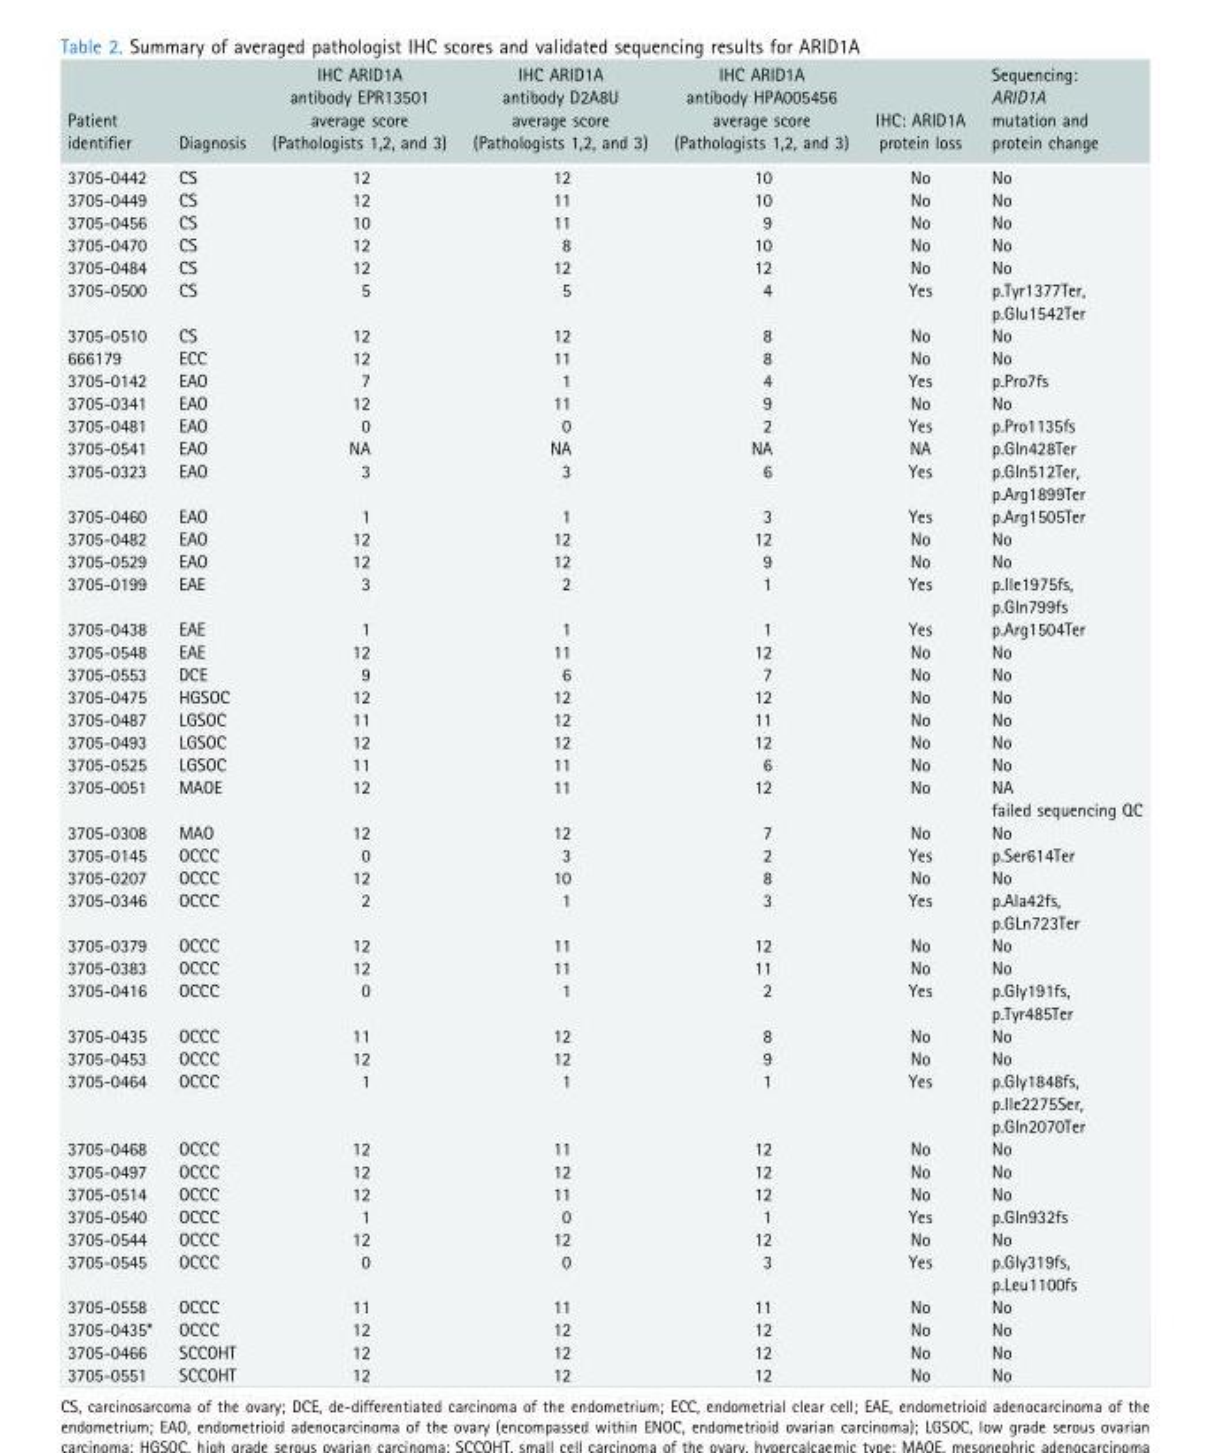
<table><thead><tr><td>Patient identifier</td><td>Diagnosis</td><td>IHC ARID1A antibody EPR13501 average score (Pathologists 1,2, and 3)</td><td>IHC ARID1A antibody D2A8U average score (Pathologists 1,2, and 3)</td><td>IHC ARID1A antibody HPA005456 average score (Pathologists 1,2, and 3)</td><td>IHC: ARID1A protein loss</td><td>Sequencing: ARID1A mutation and protein change</td></tr></thead><tbody><tr><td>3705-0442</td><td>CS</td><td>12</td><td>12</td><td>10</td><td>No</td><td>No</td></tr><tr><td>3705-0449</td><td>CS</td><td>12</td><td>11</td><td>10</td><td>No</td><td>No</td></tr><tr><td>3705-0456</td><td>CS</td><td>10</td><td>11</td><td>9</td><td>No</td><td>No</td></tr><tr><td>3705-0470</td><td>CS</td><td>12</td><td>8</td><td>10</td><td>No</td><td>No</td></tr><tr><td>3705-0484</td><td>CS</td><td>12</td><td>12</td><td>12</td><td>No</td><td>No</td></tr><tr><td>3705-0500</td><td>CS</td><td>5</td><td>5</td><td>4</td><td>Yes</td><td>p.Tyr1377Ter, p.Glu1542Ter</td></tr><tr><td>3705-0510</td><td>CS</td><td>12</td><td>12</td><td>8</td><td>No</td><td>No</td></tr><tr><td>666179</td><td>ECC</td><td>12</td><td>11</td><td>8</td><td>No</td><td>No</td></tr><tr><td>3705-0142</td><td>EAO</td><td>7</td><td>1</td><td>4</td><td>Yes</td><td>p.Pro7fs</td></tr><tr><td>3705-0341</td><td>EAO</td><td>12</td><td>11</td><td>9</td><td>No</td><td>No</td></tr><tr><td>3705-0481</td><td>EAO</td><td>0</td><td>0</td><td>2</td><td>Yes</td><td>p.Pro1135fs</td></tr><tr><td>3705-0541</td><td>EAO</td><td>NA</td><td>NA</td><td>NA</td><td>NA</td><td>p.Gln428Ter</td></tr><tr><td>3705-0323</td><td>EAO</td><td>3</td><td>3</td><td>6</td><td>Yes</td><td>p.Gln512Ter, p.Arg1899Ter</td></tr><tr><td>3705-0460</td><td>EAO</td><td>1</td><td>1</td><td>3</td><td>Yes</td><td>p.Arg1505Ter</td></tr><tr><td>3705-0482</td><td>EAO</td><td>12</td><td>12</td><td>12</td><td>No</td><td>No</td></tr><tr><td>3705-0529</td><td>EAO</td><td>12</td><td>12</td><td>9</td><td>No</td><td>No</td></tr><tr><td>3705-0199</td><td>EAE</td><td>3</td><td>2</td><td>1</td><td>Yes</td><td>p.Ile1975fs, p.Gln799fs</td></tr><tr><td>3705-0438</td><td>EAE</td><td>1</td><td>1</td><td>1</td><td>Yes</td><td>p.Arg1504Ter</td></tr><tr><td>3705-0548</td><td>EAE</td><td>12</td><td>11</td><td>12</td><td>No</td><td>No</td></tr><tr><td>3705-0553</td><td>DCE</td><td>9</td><td>6</td><td>7</td><td>No</td><td>No</td></tr><tr><td>3705-0475</td><td>HGSOC</td><td>12</td><td>12</td><td>12</td><td>No</td><td>No</td></tr><tr><td>3705-0487</td><td>LGSOC</td><td>11</td><td>12</td><td>11</td><td>No</td><td>No</td></tr><tr><td>3705-0493</td><td>LGSOC</td><td>12</td><td>12</td><td>12</td><td>No</td><td>No</td></tr><tr><td>3705-0525</td><td>LGSOC</td><td>11</td><td>11</td><td>6</td><td>No</td><td>No</td></tr><tr><td>3705-0051</td><td>MAOE</td><td>12</td><td>11</td><td>12</td><td>No</td><td>NA failed sequencing QC</td></tr><tr><td>3705-0308</td><td>MAO</td><td>12</td><td>12</td><td>7</td><td>No</td><td>No</td></tr><tr><td>3705-0145</td><td>OCCC</td><td>0</td><td>3</td><td>2</td><td>Yes</td><td>p.Ser614Ter</td></tr><tr><td>3705-0207</td><td>OCCC</td><td>12</td><td>10</td><td>8</td><td>No</td><td>No</td></tr><tr><td>3705-0346</td><td>OCCC</td><td>2</td><td>1</td><td>3</td><td>Yes</td><td>p.Ala42fs, p.GLn723Ter</td></tr><tr><td>3705-0379</td><td>OCCC</td><td>12</td><td>11</td><td>12</td><td>No</td><td>No</td></tr><tr><td>3705-0383</td><td>OCCC</td><td>12</td><td>11</td><td>11</td><td>No</td><td>No</td></tr><tr><td>3705-0416</td><td>OCCC</td><td>0</td><td>1</td><td>2</td><td>Yes</td><td>p.Gly191fs, p.Tyr485Ter</td></tr><tr><td>3705-0435</td><td>OCCC</td><td>11</td><td>12</td><td>8</td><td>No</td><td>No</td></tr><tr><td>3705-0453</td><td>OCCC</td><td>12</td><td>12</td><td>9</td><td>No</td><td>No</td></tr><tr><td>3705-0464</td><td>OCCC</td><td>1</td><td>1</td><td>1</td><td>Yes</td><td>p.Gly1848fs, p.Ile2275Ser, p.Gln2070Ter</td></tr><tr><td>3705-0468</td><td>OCCC</td><td>12</td><td>11</td><td>12</td><td>No</td><td>No</td></tr><tr><td>3705-0497</td><td>OCCC</td><td>12</td><td>12</td><td>12</td><td>No</td><td>No</td></tr><tr><td>3705-0514</td><td>OCCC</td><td>12</td><td>11</td><td>12</td><td>No</td><td>No</td></tr><tr><td>3705-0540</td><td>OCCC</td><td>1</td><td>0</td><td>1</td><td>Yes</td><td>p.Gln932fs</td></tr><tr><td>3705-0544</td><td>OCCC</td><td>12</td><td>12</td><td>12</td><td>No</td><td>No</td></tr><tr><td>3705-0545</td><td>OCCC</td><td>0</td><td>0</td><td>3</td><td>Yes</td><td>p.Gly319fs, p.Leu1100fs</td></tr><tr><td>3705-0558</td><td>OCCC</td><td>11</td><td>11</td><td>11</td><td>No</td><td>No</td></tr><tr><td>3705-0435*</td><td>OCCC</td><td>12</td><td>12</td><td>12</td><td>No</td><td>No</td></tr><tr><td>3705-0466</td><td>SCCOHT</td><td>12</td><td>12</td><td>12</td><td>No</td><td>No</td></tr><tr><td>3705-0551</td><td>SCCOHT</td><td>12</td><td>12</td><td>12</td><td>No</td><td>No</td></tr></tbody></table>